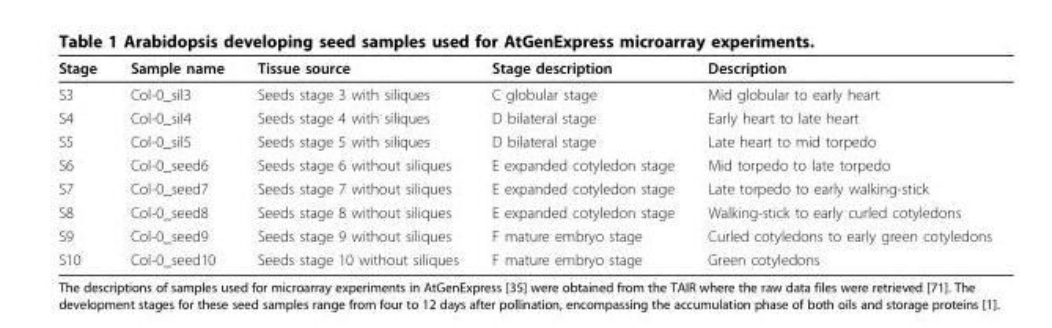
<table><thead><tr><td>Stage</td><td>Sample name</td><td>Tissue source</td><td>Stage description</td><td>Description</td></tr></thead><tbody><tr><td>S3</td><td>Col-0_sil3</td><td>Seeds stage 3 with siliques</td><td>C globular stage</td><td>Mid globular to early heart</td></tr><tr><td>S4</td><td>Col-0_sil4</td><td>Seeds stage 4 with siliques</td><td>D bilateral stage</td><td>Early heart to late heart</td></tr><tr><td>S5</td><td>Col-0_sil5</td><td>Seeds stage 5 with siliques</td><td>D bilateral stage</td><td>Late heart to mid torpedo</td></tr><tr><td>S6</td><td>Col-0_seed6</td><td>Seeds stage 6 without siliques</td><td>E expanded cotyledon stage</td><td>Mid torpedo to late torpedo</td></tr><tr><td>S7</td><td>Col-0_seed7</td><td>Seeds stage 7 without siliques</td><td>E expanded cotyledon stage</td><td>Late torpedo to early walking-stick</td></tr><tr><td>S8</td><td>Col-0_seed8</td><td>Seeds stage 8 without siliques</td><td>E expanded cotyledon stage</td><td>Walking-stick to early curled cotyledons</td></tr><tr><td>S9</td><td>Col-0_seed9</td><td>Seeds stage 9 without siliques</td><td>F mature embryo stage</td><td>Curled cotyledons to early green cotyledons</td></tr><tr><td>S10</td><td>Col-0_seed10</td><td>Seeds stage 10 without siliques</td><td>F mature embryo stage</td><td>Green cotyledons</td></tr></tbody></table>